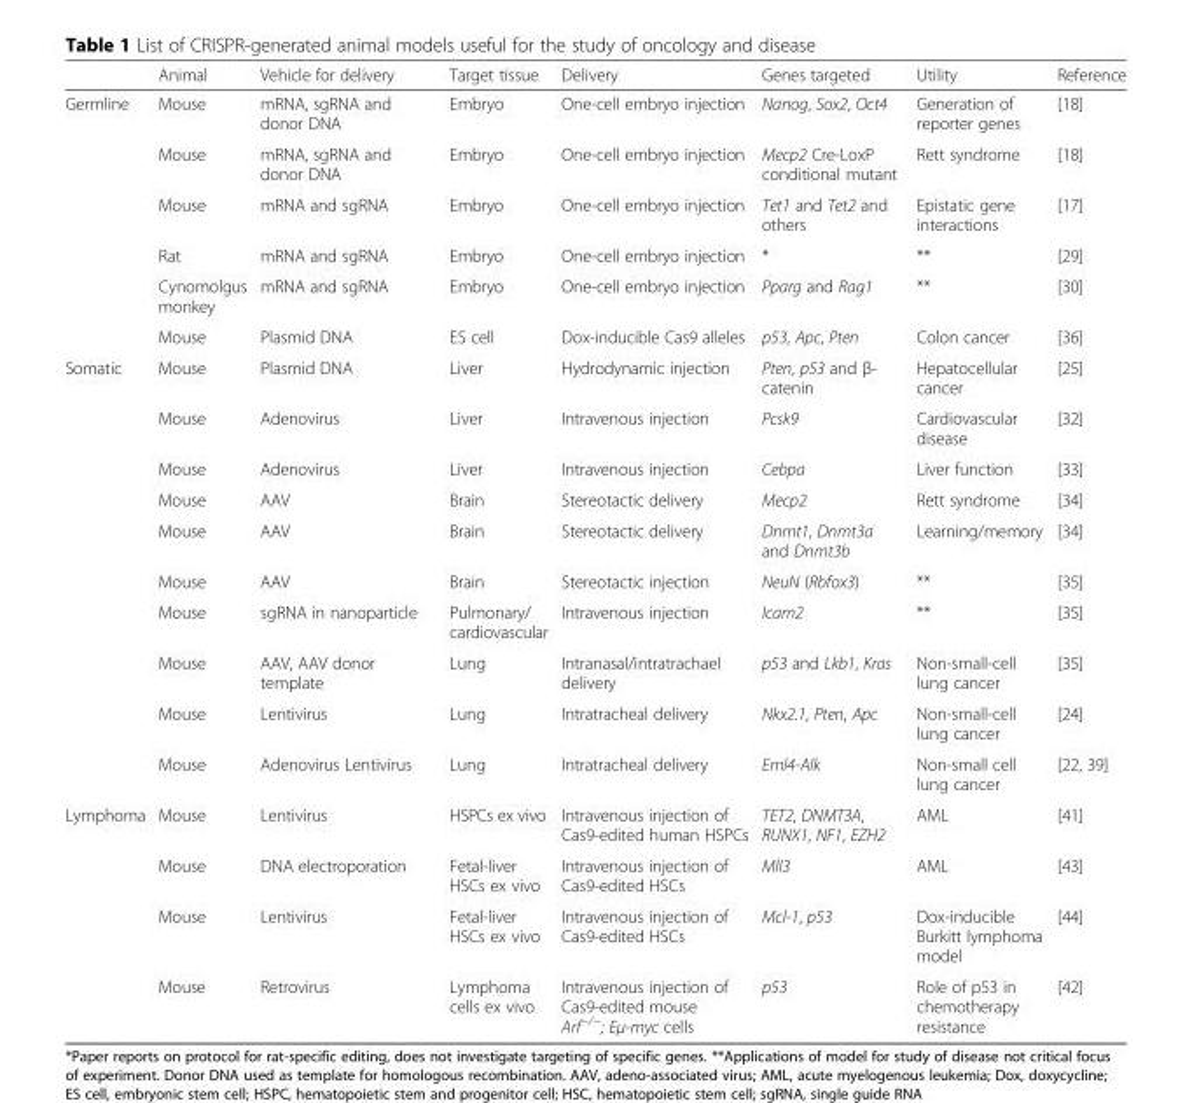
<table><thead><tr><td></td><td>Animal</td><td>Vehicle for delivery</td><td>Target tissue</td><td>Delivery</td><td>Genes targeted</td><td>Utility</td><td>Reference</td></tr></thead><tbody><tr><td rowspan="6">Germline</td><td>Mouse</td><td>mRNA, sgRNA and donor DNA</td><td>Embryo</td><td>One-cell embryo injection</td><td>Nanog, Sox2, Oct4</td><td>Generation of reporter genes</td><td>[18]</td></tr><tr><td>Mouse</td><td>mRNA, sgRNA and donor DNA</td><td>Embryo</td><td>One-cell embryo injection</td><td>Mecp2 Cre-LoxP conditional mutant</td><td>Rett syndrome</td><td>[18]</td></tr><tr><td>Mouse</td><td>mRNA and sgRNA</td><td>Embryo</td><td>One-cell embryo injection</td><td>Tet1 and Tet2 and others</td><td>Epistatic gene interactions</td><td>[17]</td></tr><tr><td>Rat</td><td>mRNA and sgRNA</td><td>Embryo</td><td>One-cell embryo injection</td><td>*</td><td>**</td><td>[29]</td></tr><tr><td>Cynomolgus monkey</td><td>mRNA and sgRNA</td><td>Embryo</td><td>One-cell embryo injection</td><td>Pparg and Rag1</td><td>**</td><td>[30]</td></tr><tr><td>Mouse</td><td>Plasmid DNA</td><td>ES cell</td><td>Dox-inducible Cas9 alleles</td><td>p53, Apc, Pten</td><td>Colon cancer</td><td>[36]</td></tr><tr><td rowspan="10">Somatic</td><td>Mouse</td><td>Plasmid DNA</td><td>Liver</td><td>Hydrodynamic injection</td><td>Pten, p53 and β- catenin</td><td>Hepatocellular cancer</td><td>[25]</td></tr><tr><td>Mouse</td><td>Adenovirus</td><td>Liver</td><td>Intravenous injection</td><td>Pcsk9</td><td>Cardiovascular disease</td><td>[32]</td></tr><tr><td>Mouse</td><td>Adenovirus</td><td>Liver</td><td>Intravenous injection</td><td>Cebpa</td><td>Liver function</td><td>[33]</td></tr><tr><td>Mouse</td><td>AAV</td><td>Brain</td><td>Stereotactic delivery</td><td>Mecp2</td><td>Rett syndrome</td><td>[34]</td></tr><tr><td>Mouse</td><td>AAV</td><td>Brain</td><td>Stereotactic delivery</td><td>Dnmt1, Dnmt3a and Dnmt3b</td><td>Learning/memory</td><td>[34]</td></tr><tr><td>Mouse</td><td>AAV</td><td>Brain</td><td>Stereotactic injection</td><td>NeuN (Rbfox3)</td><td>**</td><td>[35]</td></tr><tr><td>Mouse</td><td>sgRNA in nanoparticle</td><td>Pulmonary/ cardiovascular</td><td>Intravenous injection</td><td>Icam2</td><td>**</td><td>[35]</td></tr><tr><td>Mouse</td><td>AAV, AAV donor template</td><td>Lung</td><td>Intranasal/intratrachael delivery</td><td>p53 and Lkb1, Kras</td><td>Non-small-cell lung cancer</td><td>[35]</td></tr><tr><td>Mouse</td><td>Lentivirus</td><td>Lung</td><td>Intratracheal delivery</td><td>Nkx2.1, Pten, Apc</td><td>Non-small-cell lung cancer</td><td>[24]</td></tr><tr><td>Mouse</td><td>Adenovirus Lentivirus</td><td>Lung</td><td>Intratracheal delivery</td><td>Eml4-Alk</td><td>Non-small cell lung cancer</td><td>[22, 39]</td></tr><tr><td rowspan="4">Lymphoma</td><td>Mouse</td><td>Lentivirus</td><td>HSPCs ex vivo</td><td>Intravenous injection of Cas9-edited human HSPCs</td><td>TET2, DNMT3A, RUNX1, NF1, EZH2</td><td>AML</td><td>[41]</td></tr><tr><td>Mouse</td><td>DNA electroporation</td><td>Fetal-liver HSCs ex vivo</td><td>Intravenous injection of Cas9-edited HSCs</td><td>Mll3</td><td>AML</td><td>[43]</td></tr><tr><td>Mouse</td><td>Lentivirus</td><td>Fetal-liver HSCs ex vivo</td><td>Intravenous injection of Cas9-edited HSCs</td><td>Mcl-1, p53</td><td>Dox-inducible Burkitt lymphoma model</td><td>[44]</td></tr><tr><td>Mouse</td><td>Retrovirus</td><td>Lymphoma cells ex vivo</td><td>Intravenous injection of Cas9-edited mouse Arf<sup>−/−</sup>; Eμ-myc cells</td><td>p53</td><td>Role of p53 in chemotherapy resistance</td><td>[42]</td></tr></tbody></table>